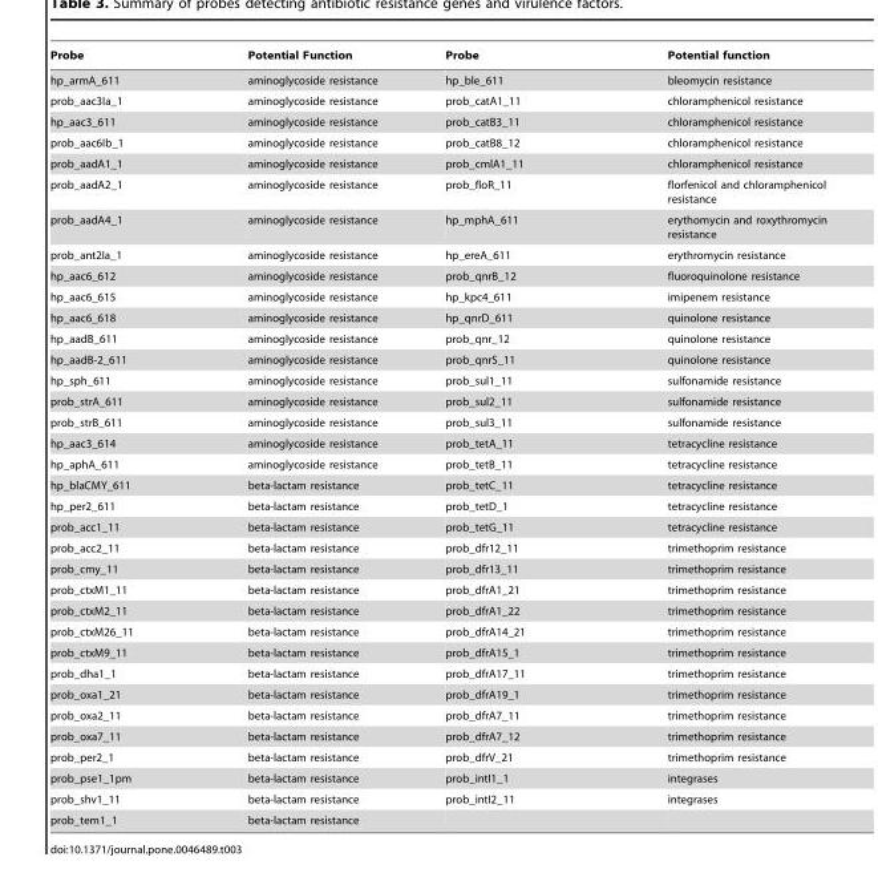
<table><thead><tr><td>Probe</td><td>Potential Function</td><td>Probe</td><td>Potential function</td></tr></thead><tbody><tr><td>hp_armA_611</td><td>aminoglycoside resistance</td><td>hp_ble_611</td><td>bleomycin resistance</td></tr><tr><td>prob_aac3Ia_1</td><td>aminoglycoside resistance</td><td>prob_catA1_11</td><td>chloramphenicol resistance</td></tr><tr><td>hp_aac3_611</td><td>aminoglycoside resistance</td><td>prob_catB3_11</td><td>chloramphenicol resistance</td></tr><tr><td>prob_aac6Ib_1</td><td>aminoglycoside resistance</td><td>prob_catB8_12</td><td>chloramphenicol resistance</td></tr><tr><td>prob_aadA1_1</td><td>aminoglycoside resistance</td><td>prob_cmlA1_11</td><td>chloramphenicol resistance</td></tr><tr><td>prob_aadA2_1</td><td>aminoglycoside resistance</td><td>prob_floR_11</td><td>florfenicol and chloramphenicol resistance</td></tr><tr><td>prob_aadA4_1</td><td>aminoglycoside resistance</td><td>hp_mphA_611</td><td>erythomycin and roxythromycin resistance</td></tr><tr><td>prob_ant2Ia_1</td><td>aminoglycoside resistance</td><td>hp_ereA_611</td><td>erythromycin resistance</td></tr><tr><td>hp_aac6_612</td><td>aminoglycoside resistance</td><td>prob_qnrB_12</td><td>fluoroquinolone resistance</td></tr><tr><td>hp_aac6_615</td><td>aminoglycoside resistance</td><td>hp_kpc4_611</td><td>imipenem resistance</td></tr><tr><td>hp_aac6_618</td><td>aminoglycoside resistance</td><td>hp_qnrD_611</td><td>quinolone resistance</td></tr><tr><td>hp_aadB_611</td><td>aminoglycoside resistance</td><td>prob_qnr_12</td><td>quinolone resistance</td></tr><tr><td>hp_aadB-2_611</td><td>aminoglycoside resistance</td><td>prob_qnrS_11</td><td>quinolone resistance</td></tr><tr><td>hp_sph_611</td><td>aminoglycoside resistance</td><td>prob_sul1_11</td><td>sulfonamide resistance</td></tr><tr><td>prob_strA_611</td><td>aminoglycoside resistance</td><td>prob_sul2_11</td><td>sulfonamide resistance</td></tr><tr><td>prob_strB_611</td><td>aminoglycoside resistance</td><td>prob_sul3_11</td><td>sulfonamide resistance</td></tr><tr><td>hp_aac3_614</td><td>aminoglycoside resistance</td><td>prob_tetA_11</td><td>tetracycline resistance</td></tr><tr><td>hp_aphA_611</td><td>aminoglycoside resistance</td><td>prob_tetB_11</td><td>tetracycline resistance</td></tr><tr><td>hp_blaCMY_611</td><td>beta-lactam resistance</td><td>prob_tetC_11</td><td>tetracycline resistance</td></tr><tr><td>hp_per2_611</td><td>beta-lactam resistance</td><td>prob_tetD_1</td><td>tetracycline resistance</td></tr><tr><td>prob_acc1_11</td><td>beta-lactam resistance</td><td>prob_tetG_11</td><td>tetracycline resistance</td></tr><tr><td>prob_acc2_11</td><td>beta-lactam resistance</td><td>prob_dfr12_11</td><td>trimethoprim resistance</td></tr><tr><td>prob_cmy_11</td><td>beta-lactam resistance</td><td>prob_dfr13_11</td><td>trimethoprim resistance</td></tr><tr><td>prob_ctxM1_11</td><td>beta-lactam resistance</td><td>prob_dfrA1_21</td><td>trimethoprim resistance</td></tr><tr><td>prob_ctxM2_11</td><td>beta-lactam resistance</td><td>prob_dfrA1_22</td><td>trimethoprim resistance</td></tr><tr><td>prob_ctxM26_11</td><td>beta-lactam resistance</td><td>prob_dfrA14_21</td><td>trimethoprim resistance</td></tr><tr><td>prob_ctxM9_11</td><td>beta-lactam resistance</td><td>prob_dfrA15_1</td><td>trimethoprim resistance</td></tr><tr><td>prob_dha1_1</td><td>beta-lactam resistance</td><td>prob_dfrA17_11</td><td>trimethoprim resistance</td></tr><tr><td>prob_oxa1_21</td><td>beta-lactam resistance</td><td>prob_dfrA19_1</td><td>trimethoprim resistance</td></tr><tr><td>prob_oxa2_11</td><td>beta-lactam resistance</td><td>prob_dfrA7_11</td><td>trimethoprim resistance</td></tr><tr><td>prob_oxa7_11</td><td>beta-lactam resistance</td><td>prob_dfrA7_12</td><td>trimethoprim resistance</td></tr><tr><td>prob_per2_1</td><td>beta-lactam resistance</td><td>prob_dfrV_21</td><td>trimethoprim resistance</td></tr><tr><td>prob_pse1_1pm</td><td>beta-lactam resistance</td><td>prob_intI1_1</td><td>integrases</td></tr><tr><td>prob_shv1_11</td><td>beta-lactam resistance</td><td>prob_intI2_11</td><td>integrases</td></tr><tr><td>prob_tem1_1</td><td>beta-lactam resistance</td><td></td><td></td></tr></tbody></table>